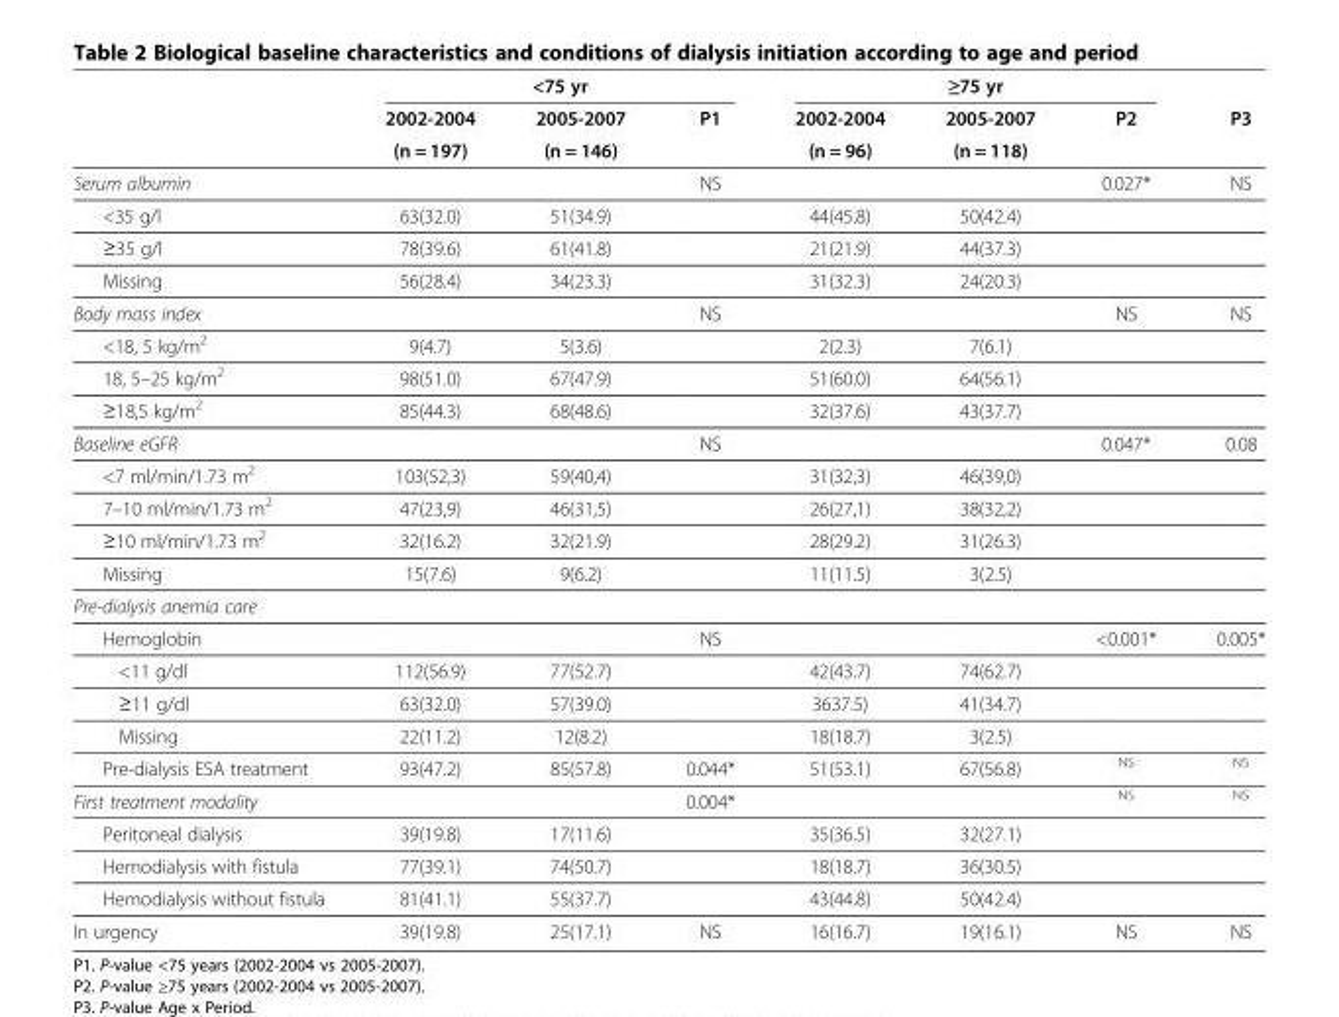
<table><thead><tr><td rowspan="3"></td><td colspan="3">&lt;75 yr</td><td colspan="3">≥75 yr</td><td rowspan="3">P3</td></tr><tr><td rowspan="2">2002-2004 (n = 197)</td><td rowspan="2">2005-2007 (n = 146)</td><td rowspan="2">P1</td><td rowspan="2">2002-2004 (n = 96)</td><td rowspan="2">2005-2007 (n = 118)</td><td rowspan="2">P2</td></tr><tr></tr></thead><tbody><tr><td>Serum albumin</td><td></td><td></td><td>NS</td><td></td><td></td><td>0.027*</td><td>NS</td></tr><tr><td>&lt;35 g/l</td><td>63(32.0)</td><td>51(34.9)</td><td></td><td>44(45.8)</td><td>50(42.4)</td><td></td><td></td></tr><tr><td>≥35 g/l</td><td>78(39.6)</td><td>61(41.8)</td><td></td><td>21(21.9)</td><td>44(37.3)</td><td></td><td></td></tr><tr><td>Missing</td><td>56(28.4)</td><td>34(23.3)</td><td></td><td>31(32.3)</td><td>24(20.3)</td><td></td><td></td></tr><tr><td>Body mass index</td><td></td><td></td><td>NS</td><td></td><td></td><td>NS</td><td>NS</td></tr><tr><td>&lt;18, 5 kg/m<sup>2</sup></td><td>9(4.7)</td><td>5(3.6)</td><td></td><td>2(2.3)</td><td>7(6.1)</td><td></td><td></td></tr><tr><td>18, 5–25 kg/m<sup>2</sup></td><td>98(51.0)</td><td>67(47.9)</td><td></td><td>51(60.0)</td><td>64(56.1)</td><td></td><td></td></tr><tr><td>≥18,5 kg/m<sup>2</sup></td><td>85(44.3)</td><td>68(48.6)</td><td></td><td>32(37.6)</td><td>43(37.7)</td><td></td><td></td></tr><tr><td>Baseline eGFR</td><td></td><td></td><td>NS</td><td></td><td></td><td>0.047*</td><td>0.08</td></tr><tr><td>&lt;7 ml/min/1.73 m<sup>2</sup></td><td>103(52,3)</td><td>59(40,4)</td><td></td><td>31(32,3)</td><td>46(39,0)</td><td></td><td></td></tr><tr><td>7–10 ml/min/1.73 m<sup>2</sup></td><td>47(23,9)</td><td>46(31,5)</td><td></td><td>26(27,1)</td><td>38(32,2)</td><td></td><td></td></tr><tr><td>≥10 ml/min/1.73 m<sup>2</sup></td><td>32(16.2)</td><td>32(21.9)</td><td></td><td>28(29.2)</td><td>31(26.3)</td><td></td><td></td></tr><tr><td>Missing</td><td>15(7.6)</td><td>9(6.2)</td><td></td><td>11(11.5)</td><td>3(2.5)</td><td></td><td></td></tr><tr><td colspan="8">Pre-dialysis anemia care</td></tr><tr><td>Hemoglobin</td><td></td><td></td><td>NS</td><td></td><td></td><td>&lt;0.001*</td><td>0.005*</td></tr><tr><td>&lt;11 g/dl</td><td>112(56.9)</td><td>77(52.7)</td><td></td><td>42(43.7)</td><td>74(62.7)</td><td></td><td></td></tr><tr><td>≥11 g/dl</td><td>63(32.0)</td><td>57(39.0)</td><td></td><td>3637.5)</td><td>41(34.7)</td><td></td><td></td></tr><tr><td>Missing</td><td>22(11.2)</td><td>12(8.2)</td><td></td><td>18(18.7)</td><td>3(2.5)</td><td></td><td></td></tr><tr><td>Pre-dialysis ESA treatment</td><td>93(47.2)</td><td>85(57.8)</td><td>0.044*</td><td>51(53.1)</td><td>67(56.8)</td><td><sup>NS</sup></td><td><sup>NS</sup></td></tr><tr><td>First treatment modality</td><td></td><td></td><td>0.004*</td><td></td><td></td><td><sup>NS</sup></td><td><sup>NS</sup></td></tr><tr><td>Peritoneal dialysis</td><td>39(19.8)</td><td>17(11.6)</td><td></td><td>35(36.5)</td><td>32(27.1)</td><td></td><td></td></tr><tr><td>Hemodialysis with fistula</td><td>77(39.1)</td><td>74(50.7)</td><td></td><td>18(18.7)</td><td>36(30.5)</td><td></td><td></td></tr><tr><td>Hemodialysis without fistula</td><td>81(41.1)</td><td>55(37.7)</td><td></td><td>43(44.8)</td><td>50(42.4)</td><td></td><td></td></tr><tr><td>In urgency</td><td>39(19.8)</td><td>25(17.1)</td><td>NS</td><td>16(16.7)</td><td>19(16.1)</td><td>NS</td><td>NS</td></tr></tbody></table>